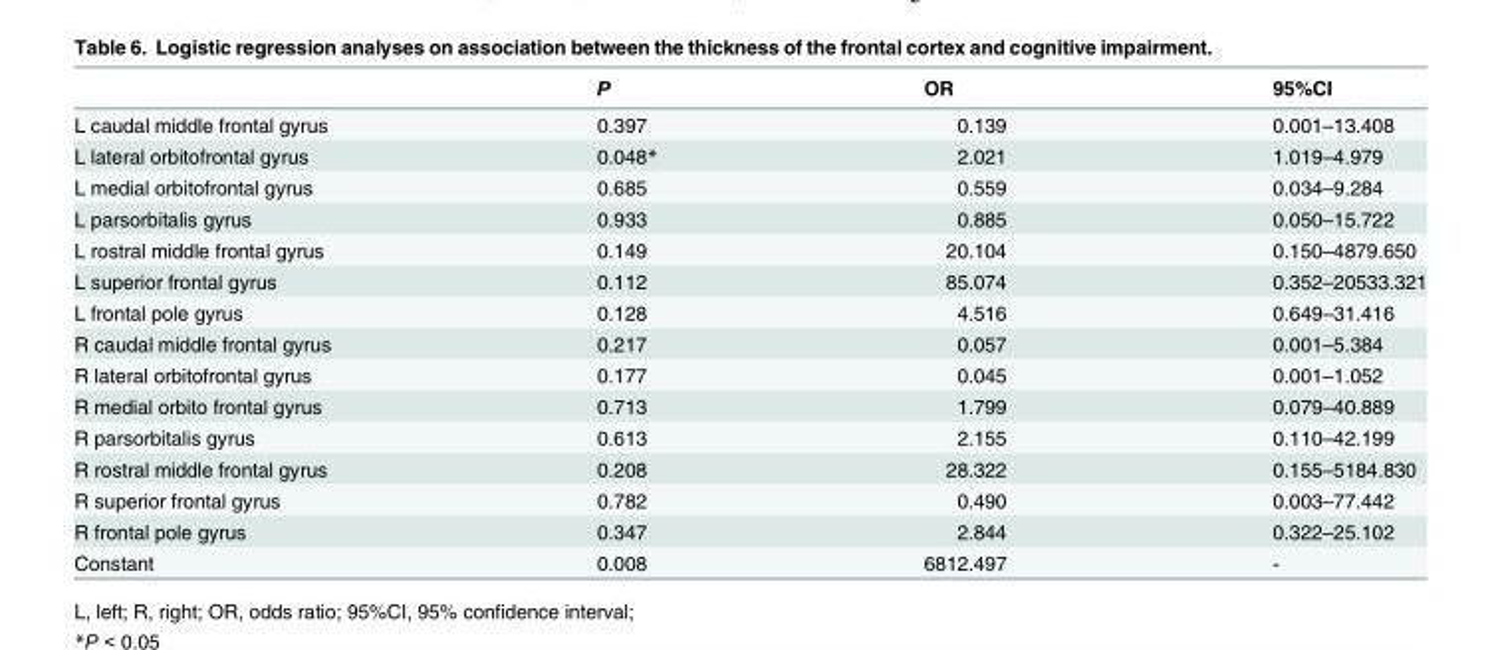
<table><thead><tr><td></td><td>P</td><td>OR</td><td>95%CI</td></tr></thead><tbody><tr><td>L caudal middle frontal gyrus</td><td>0.397</td><td>0.139</td><td>0.001–13.408</td></tr><tr><td>L lateral orbitofrontal gyrus</td><td>0.048*</td><td>2.021</td><td>1.019–4.979</td></tr><tr><td>L medial orbitofrontal gyrus</td><td>0.685</td><td>0.559</td><td>0.034–9.284</td></tr><tr><td>L parsorbitalis gyrus</td><td>0.933</td><td>0.885</td><td>0.050–15.722</td></tr><tr><td>L rostral middle frontal gyrus</td><td>0.149</td><td>20.104</td><td>0.150–4879.650</td></tr><tr><td>L superior frontal gyrus</td><td>0.112</td><td>85.074</td><td>0.352–20533.321</td></tr><tr><td>L frontal pole gyrus</td><td>0.128</td><td>4.516</td><td>0.649–31.416</td></tr><tr><td>R caudal middle frontal gyrus</td><td>0.217</td><td>0.057</td><td>0.001–5.384</td></tr><tr><td>R lateral orbitofrontal gyrus</td><td>0.177</td><td>0.045</td><td>0.001–1.052</td></tr><tr><td>R medial orbito frontal gyrus</td><td>0.713</td><td>1.799</td><td>0.079–40.889</td></tr><tr><td>R parsorbitalis gyrus</td><td>0.613</td><td>2.155</td><td>0.110–42.199</td></tr><tr><td>R rostral middle frontal gyrus</td><td>0.208</td><td>28.322</td><td>0.155–5184.830</td></tr><tr><td>R superior frontal gyrus</td><td>0.782</td><td>0.490</td><td>0.003–77.442</td></tr><tr><td>R frontal pole gyrus</td><td>0.347</td><td>2.844</td><td>0.322–25.102</td></tr><tr><td>Constant</td><td>0.008</td><td>6812.497</td><td>-</td></tr></tbody></table>